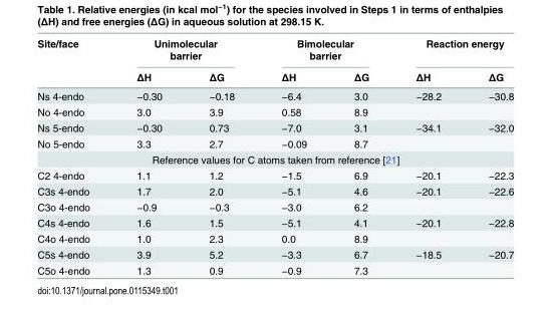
<table><thead><tr><td rowspan="2">Site/face</td><td colspan="2">Unimolecular barrier</td><td colspan="2">Bimolecular barrier</td><td colspan="2">Reaction energy</td></tr><tr><td>ΔH</td><td>ΔG</td><td>ΔH</td><td>ΔG</td><td>ΔH</td><td>ΔG</td></tr></thead><tbody><tr><td>Ns 4-endo</td><td>−0.30</td><td>−0.18</td><td>−6.4</td><td>3.0</td><td>−28.2</td><td>−30.8</td></tr><tr><td>No 4-endo</td><td>3.0</td><td>3.9</td><td>0.58</td><td>8.9</td><td></td><td></td></tr><tr><td>Ns 5-endo</td><td>−0.30</td><td>0.73</td><td>−7.0</td><td>3.1</td><td>−34.1</td><td>−32.0</td></tr><tr><td>No 5-endo</td><td>3.3</td><td>2.7</td><td>−0.09</td><td>8.7</td><td></td><td></td></tr><tr><td colspan="7">Reference values for C atoms taken from reference [21]</td></tr><tr><td>C2 4-endo</td><td>1.1</td><td>1.2</td><td>−1.5</td><td>6.9</td><td>−20.1</td><td>−22.3</td></tr><tr><td>C3s 4-endo</td><td>1.7</td><td>2.0</td><td>−5.1</td><td>4.6</td><td>−20.1</td><td>−22.6</td></tr><tr><td>C3o 4-endo</td><td>−0.9</td><td>−0.3</td><td>−3.0</td><td>6.2</td><td></td><td></td></tr><tr><td>C4s 4-endo</td><td>1.6</td><td>1.5</td><td>−5.1</td><td>4.1</td><td>−20.1</td><td>−22.8</td></tr><tr><td>C4o 4-endo</td><td>1.0</td><td>2.3</td><td>0.0</td><td>8.9</td><td></td><td></td></tr><tr><td>C5s 4-endo</td><td>3.9</td><td>5.2</td><td>−3.3</td><td>6.7</td><td>−18.5</td><td>−20.7</td></tr><tr><td>C5o 4-endo</td><td>1.3</td><td>0.9</td><td>−0.9</td><td>7.3</td><td></td><td></td></tr></tbody></table>